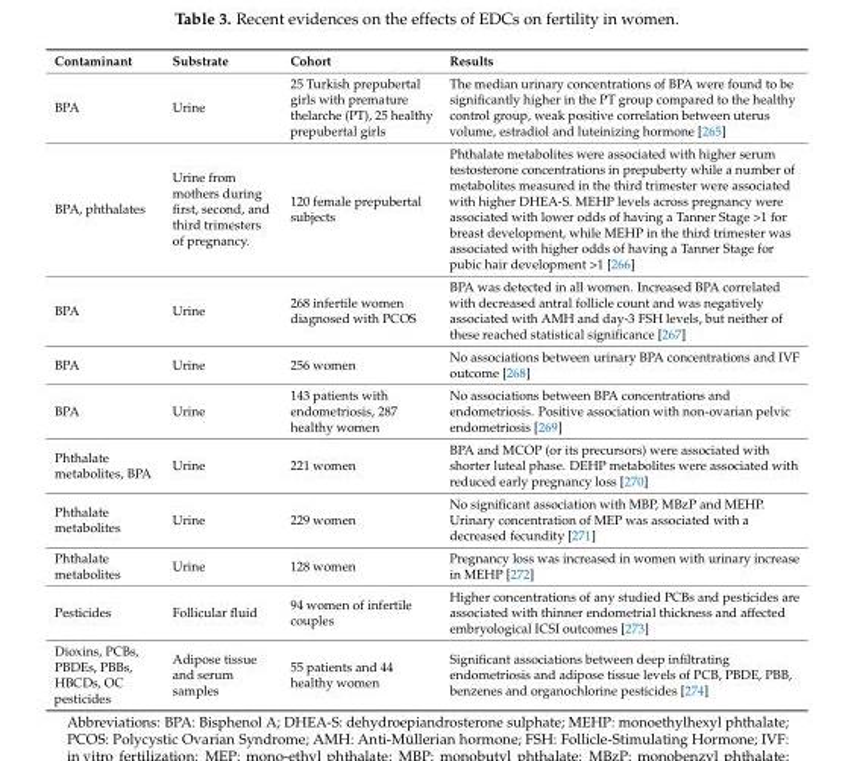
<table><thead><tr><td>Contaminant</td><td>Substrate</td><td>Cohort</td><td>Results</td></tr></thead><tbody><tr><td>BPA</td><td>Urine</td><td>25 Turkish prepubertal girls with premature thelarche (PT), 25 healthy prepubertal girls</td><td>The median urinary concentrations of BPA were found to be significantly higher in the PT group compared to the healthy control group, weak positive correlation between uterus volume, estradiol and luteinizing hormone [265]</td></tr><tr><td>BPA, phthalates</td><td>Urine from mothers during first, second, and third trimesters of pregnancy.</td><td>120 female prepubertal subjects</td><td>Phthalate metabolites were associated with higher serum testosterone concentrations in prepuberty while a number of metabolites measured in the third trimester were associated with higher DHEA-S. MEHP levels across pregnancy were associated with lower odds of having a Tanner Stage &gt;1 for breast development, while MEHP in the third trimester was associated with higher odds of having a Tanner Stage for pubic hair development &gt;1 [266]</td></tr><tr><td>BPA</td><td>Urine</td><td>268 infertile women diagnosed with PCOS</td><td>BPA was detected in all women. Increased BPA correlated with decreased antral follicle count and was negatively associated with AMH and day-3 FSH levels, but neither of these reached statistical significance [267]</td></tr><tr><td>BPA</td><td>Urine</td><td>256 women</td><td>No associations between urinary BPA concentrations and IVF outcome [268]</td></tr><tr><td>BPA</td><td>Urine</td><td>143 patients with endometriosis, 287 healthy women</td><td>No associations between BPA concentrations and endometriosis. Positive association with non-ovarian pelvic endometriosis [269]</td></tr><tr><td>Phthalate metabolites, BPA</td><td>Urine</td><td>221 women</td><td>BPA and MCOP (or its precursors) were associated with shorter luteal phase. DEHP metabolites were associated with reduced early pregnancy loss [270]</td></tr><tr><td>Phthalate metabolites</td><td>Urine</td><td>229 women</td><td>No significant association with MBP, MBzP and MEHP. Urinary concentration of MEP was associated with a decreased fecundity [271]</td></tr><tr><td>Phthalate metabolites</td><td>Urine</td><td>128 women</td><td>Pregnancy loss was increased in women with urinary increase in MEHP [272]</td></tr><tr><td>Pesticides</td><td>Follicular fluid</td><td>94 women of infertile couples</td><td>Higher concentrations of any studied PCBs and pesticides are associated with thinner endometrial thickness and affected embryological ICSI outcomes [273]</td></tr><tr><td>Dioxins, PCBs, PBDEs, PBBs, HBCDs, OC pesticides</td><td>Adipose tissue and serum samples</td><td>55 patients and 44 healthy women</td><td>Significant associations between deep infiltrating endometriosis and adipose tissue levels of PCB, PBDE, PBB, benzenes and organochlorine pesticides [274]</td></tr></tbody></table>